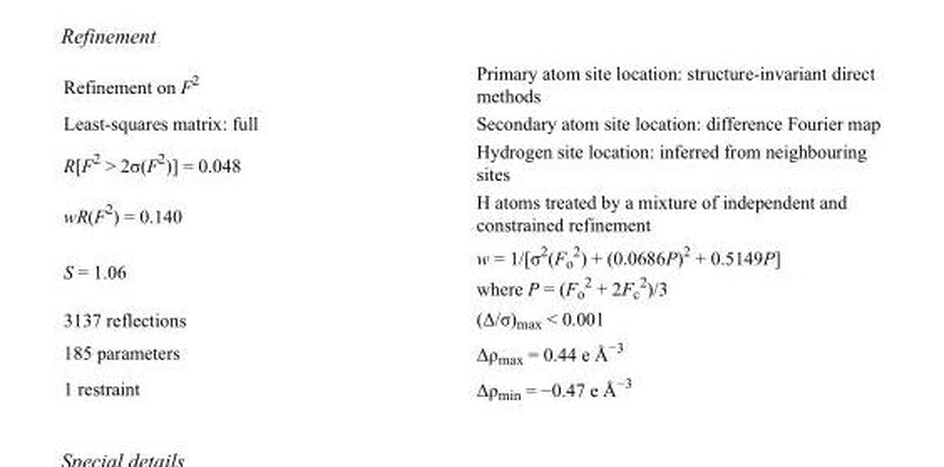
<table><tbody><tr><td>Refinement on F<sup>2</sup></td><td>Primary atom site location: structure-invariant direct methods</td></tr><tr><td>Least-squares matrix: full</td><td>Secondary atom site location: difference Fourier map</td></tr><tr><td>R[F<sup>2</sup> &gt; 2σ(F<sup>2</sup>)] = 0.048</td><td>Hydrogen site location: inferred from neighbouring sites</td></tr><tr><td>wR(F<sup>2</sup>) = 0.140</td><td>H atoms treated by a mixture of independent and constrained refinement</td></tr><tr><td>S = 1.06</td><td>w = 1/[σ<sup>2</sup>(F<sub>o</sub> <sup>2</sup>) + (0.0686P)<sup>2</sup> + 0.5149P] where P = (F<sub>o</sub> <sup>2</sup> + 2F<sub>c</sub> <sup>2</sup>)/3</td></tr><tr><td>3137 reflections</td><td>(Δ/σ)<sub>max</sub> &lt; 0.001</td></tr><tr><td>185 parameters</td><td>Δρ<sub>max</sub> = 0.44 e Å<sup>−3</sup></td></tr><tr><td>1 restraint</td><td>Δρ<sub>min</sub> = −0.47 e Å<sup>−3</sup></td></tr></tbody></table>